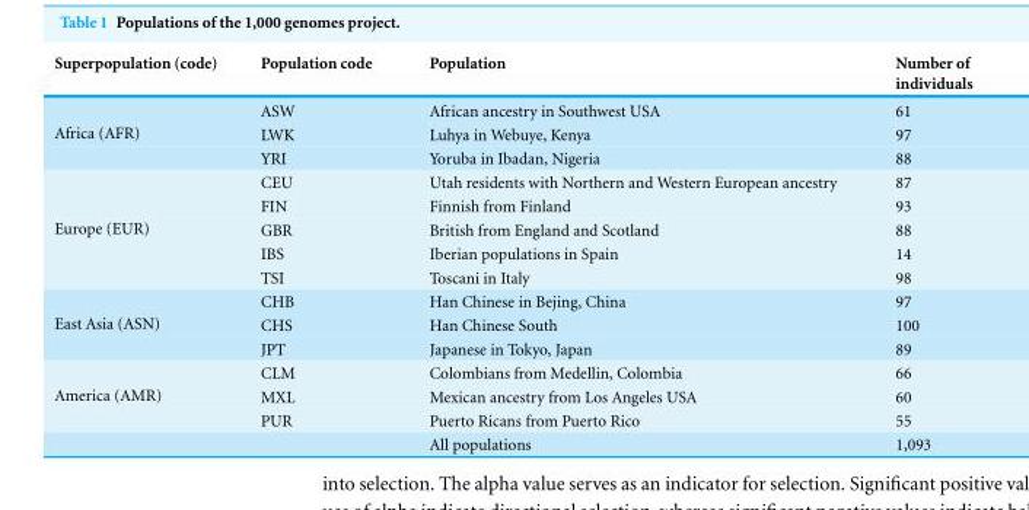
<table><thead><tr><td>Superpopulation (code)</td><td>Population code</td><td>Population</td><td>Number of individuals</td></tr></thead><tbody><tr><td rowspan="3">Africa (AFR)</td><td>ASW</td><td>African ancestry in Southwest USA</td><td>61</td></tr><tr><td>LWK</td><td>Luhya in Webuye, Kenya</td><td>97</td></tr><tr><td>YRI</td><td>Yoruba in Ibadan, Nigeria</td><td>88</td></tr><tr><td rowspan="5">Europe (EUR)</td><td>CEU</td><td>Utah residents with Northern and Western European ancestry</td><td>87</td></tr><tr><td>FIN</td><td>Finnish from Finland</td><td>93</td></tr><tr><td>GBR</td><td>British from England and Scotland</td><td>88</td></tr><tr><td>IBS</td><td>Iberian populations in Spain</td><td>14</td></tr><tr><td>TSI</td><td>Toscani in Italy</td><td>98</td></tr><tr><td rowspan="3">East Asia (ASN)</td><td>CHB</td><td>Han Chinese in Bejing, China</td><td>97</td></tr><tr><td>CHS</td><td>Han Chinese South</td><td>100</td></tr><tr><td>JPT</td><td>Japanese in Tokyo, Japan</td><td>89</td></tr><tr><td rowspan="4">America (AMR)</td><td>CLM</td><td>Colombians from Medellin, Colombia</td><td>66</td></tr><tr><td>MXL</td><td>Mexican ancestry from Los Angeles USA</td><td>60</td></tr><tr><td>PUR</td><td>Puerto Ricans from Puerto Rico</td><td>55</td></tr><tr><td></td><td>All populations</td><td>1,093</td></tr></tbody></table>